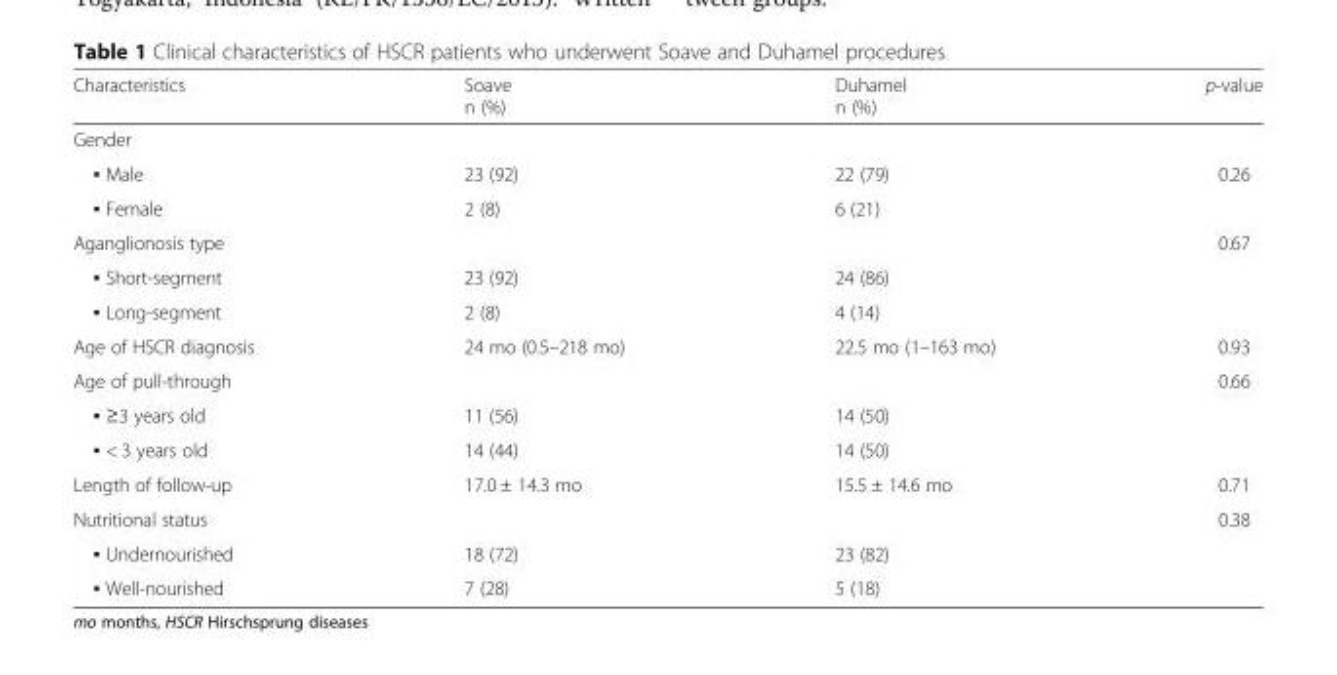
<table><thead><tr><td>Characteristics</td><td>Soave n (%)</td><td>Duhamel n (%)</td><td>p-value</td></tr></thead><tbody><tr><td colspan="4">Gender</td></tr><tr><td>▪ Male</td><td>23 (92)</td><td>22 (79)</td><td>0.26</td></tr><tr><td>▪ Female</td><td>2 (8)</td><td>6 (21)</td><td></td></tr><tr><td>Aganglionosis type</td><td></td><td></td><td>0.67</td></tr><tr><td>▪ Short-segment</td><td>23 (92)</td><td>24 (86)</td><td></td></tr><tr><td>▪ Long-segment</td><td>2 (8)</td><td>4 (14)</td><td></td></tr><tr><td>Age of HSCR diagnosis</td><td>24 mo (0.5–218 mo)</td><td>22.5 mo (1–163 mo)</td><td>0.93</td></tr><tr><td>Age of pull-through</td><td></td><td></td><td>0.66</td></tr><tr><td>▪ ≥3 years old</td><td>11 (56)</td><td>14 (50)</td><td></td></tr><tr><td>▪ &lt; 3 years old</td><td>14 (44)</td><td>14 (50)</td><td></td></tr><tr><td>Length of follow-up</td><td>17.0 ± 14.3 mo</td><td>15.5 ± 14.6 mo</td><td>0.71</td></tr><tr><td>Nutritional status</td><td></td><td></td><td>0.38</td></tr><tr><td>▪ Undernourished</td><td>18 (72)</td><td>23 (82)</td><td></td></tr><tr><td>▪ Well-nourished</td><td>7 (28)</td><td>5 (18)</td><td></td></tr></tbody></table>